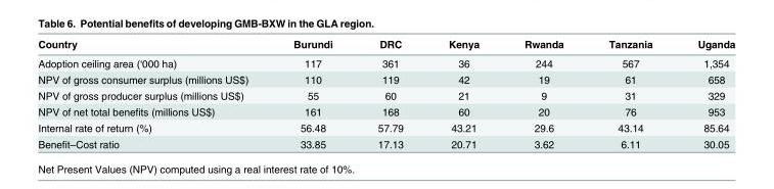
<table><thead><tr><td>Country</td><td>Burundi</td><td>DRC</td><td>Kenya</td><td>Rwanda</td><td>Tanzania</td><td>Uganda</td></tr></thead><tbody><tr><td>Adoption ceiling area (‘000 ha)</td><td>117</td><td>361</td><td>36</td><td>244</td><td>567</td><td>1,354</td></tr><tr><td>NPV of gross consumer surplus (millions US$)</td><td>110</td><td>119</td><td>42</td><td>19</td><td>61</td><td>658</td></tr><tr><td>NPV of gross producer surplus (millions US$)</td><td>55</td><td>60</td><td>21</td><td>9</td><td>31</td><td>329</td></tr><tr><td>NPV of net total benefits (millions US$)</td><td>161</td><td>168</td><td>60</td><td>20</td><td>76</td><td>953</td></tr><tr><td>Internal rate of return (%)</td><td>56.48</td><td>57.79</td><td>43.21</td><td>29.6</td><td>43.14</td><td>85.64</td></tr><tr><td>Benefit–Cost ratio</td><td>33.85</td><td>17.13</td><td>20.71</td><td>3.62</td><td>6.11</td><td>30.05</td></tr></tbody></table>